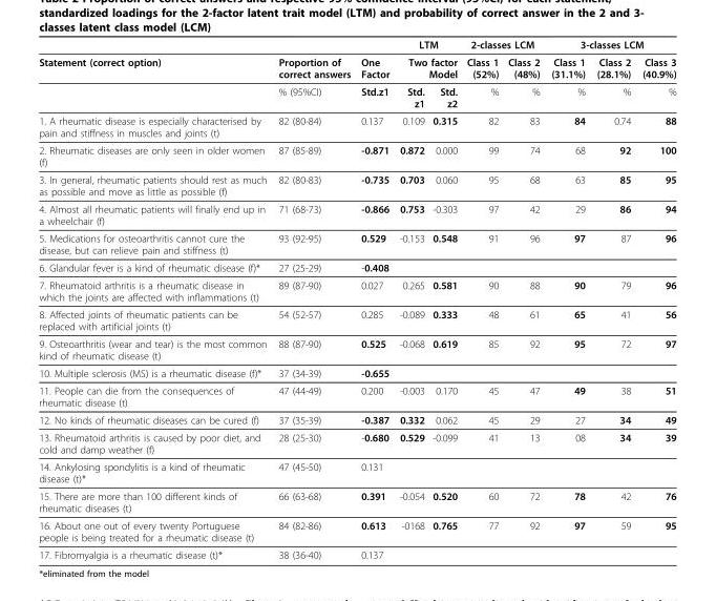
<table><thead><tr><td rowspan="3">Statement (correct option)</td><td rowspan="3">Proportion of correct answers % (95%CI)</td><td rowspan="3">One Factor Std.z1</td><td rowspan="2" colspan="2">LTM Two factor Model</td><td colspan="2">2-classes LCM</td><td colspan="3">3-classes LCM</td></tr><tr><td rowspan="2">Class 1 (52%) %</td><td rowspan="2">Class 2 (48%) %</td><td rowspan="2">Class 1 (31.1%) %</td><td rowspan="2">Class 2 (28.1%) %</td><td rowspan="2">Class 3 (40.9%) %</td></tr><tr><td>Std. z1</td><td>Std. z2</td></tr></thead><tbody><tr><td>1. A rheumatic disease is especially characterised by pain and stiffness in muscles and joints (t)</td><td>82 (80-84)</td><td>0.137</td><td>0.109</td><td>0.315</td><td>82</td><td>83</td><td>84</td><td>0.74</td><td>88</td></tr><tr><td>2. Rheumatic diseases are only seen in older women (f)</td><td>87 (85-89)</td><td>-0.871</td><td>0.872</td><td>0.000</td><td>99</td><td>74</td><td>68</td><td>92</td><td>100</td></tr><tr><td>3. In general, rheumatic patients should rest as much as possible and move as little as possible (f)</td><td>82 (80-83)</td><td>-0.735</td><td>0.703</td><td>0.060</td><td>95</td><td>68</td><td>63</td><td>85</td><td>95</td></tr><tr><td>4. Almost all rheumatic patients will finally end up in a wheelchair (f)</td><td>71 (68-73)</td><td>-0.866</td><td>0.753</td><td>-0.303</td><td>97</td><td>42</td><td>29</td><td>86</td><td>94</td></tr><tr><td>5. Medications for osteoarthritis cannot cure the disease, but can relieve pain and stiffness (t)</td><td>93 (92-95)</td><td>0.529</td><td>-0.153</td><td>0.548</td><td>91</td><td>96</td><td>97</td><td>87</td><td>96</td></tr><tr><td>6. Glandular fever is a kind of rheumatic disease (f)*</td><td>27 (25-29)</td><td>-0.408</td><td></td><td></td><td></td><td></td><td></td><td></td><td></td></tr><tr><td>7. Rheumatoid arthritis is a rheumatic disease in which the joints are affected with inflammations (t)</td><td>89 (87-90)</td><td>0.027</td><td>0.265</td><td>0.581</td><td>90</td><td>88</td><td>90</td><td>79</td><td>96</td></tr><tr><td>8. Affected joints of rheumatic patients can be replaced with artificial joints (t)</td><td>54 (52-57)</td><td>0.285</td><td>-0.089</td><td>0.333</td><td>48</td><td>61</td><td>65</td><td>41</td><td>56</td></tr><tr><td>9. Osteoarthritis (wear and tear) is the most common kind of rheumatic disease (t)</td><td>88 (87-90)</td><td>0.525</td><td>-0.068</td><td>0.619</td><td>85</td><td>92</td><td>95</td><td>72</td><td>97</td></tr><tr><td>10. Multiple sclerosis (MS) is a rheumatic disease (f)*</td><td>37 (34-39)</td><td>-0.655</td><td></td><td></td><td></td><td></td><td></td><td></td><td></td></tr><tr><td>11. People can die from the consequences of rheumatic disease (t)</td><td>47 (44-49)</td><td>0.200</td><td>-0.003</td><td>0.170</td><td>45</td><td>47</td><td>49</td><td>38</td><td>51</td></tr><tr><td>12. No kinds of rheumatic diseases can be cured (f)</td><td>37 (35-39)</td><td>-0.387</td><td>0.332</td><td>0.062</td><td>45</td><td>29</td><td>27</td><td>34</td><td>49</td></tr><tr><td>13. Rheumatoid arthritis is caused by poor diet, and cold and damp weather (f)</td><td>28 (25-30)</td><td>-0.680</td><td>0.529</td><td>-0.099</td><td>41</td><td>13</td><td>08</td><td>34</td><td>39</td></tr><tr><td>14. Ankylosing spondylitis is a kind of rheumatic disease (t)*</td><td>47 (45-50)</td><td>0.131</td><td></td><td></td><td></td><td></td><td></td><td></td><td></td></tr><tr><td>15. There are more than 100 different kinds of rheumatic diseases (t)</td><td>66 (63-68)</td><td>0.391</td><td>-0.054</td><td>0.520</td><td>60</td><td>72</td><td>78</td><td>42</td><td>76</td></tr><tr><td>16. About one out of every twenty Portuguese people is being treated for a rheumatic disease (t)</td><td>84 (82-86)</td><td>0.613</td><td>-0168</td><td>0.765</td><td>77</td><td>92</td><td>97</td><td>59</td><td>95</td></tr><tr><td>17. Fibromyalgia is a rheumatic disease (t)*</td><td>38 (36-40)</td><td>0.137</td><td></td><td></td><td></td><td></td><td></td><td></td><td></td></tr></tbody></table>